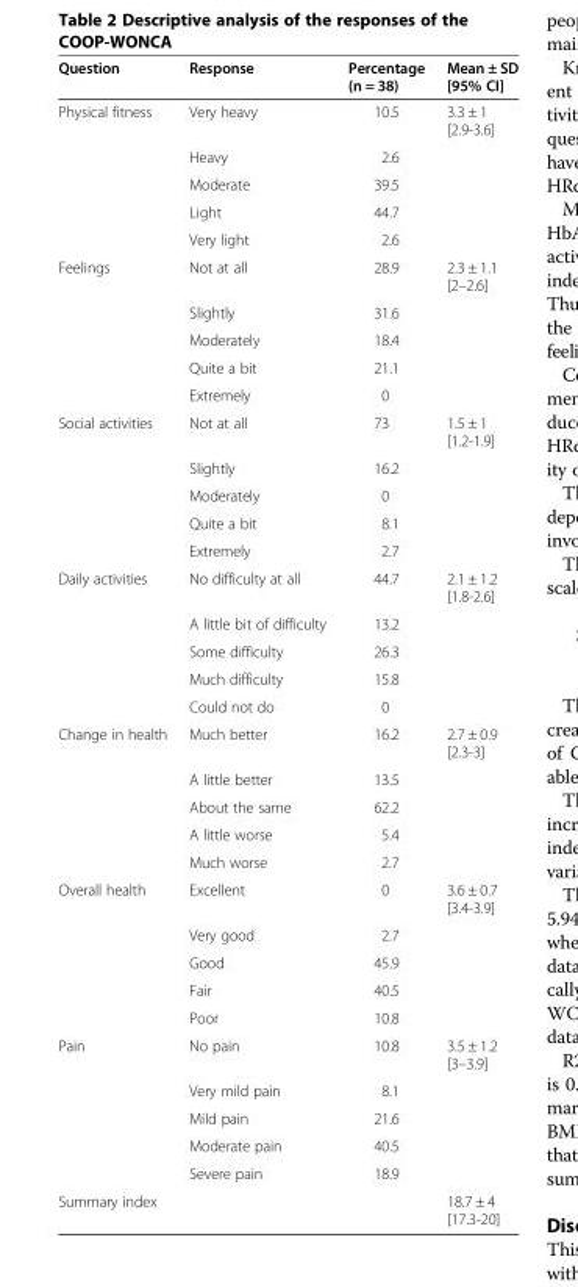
<table><thead><tr><td>Question</td><td>Response</td><td>Percentage (n = 38)</td><td>Mean ± SD [95% CI]</td></tr></thead><tbody><tr><td rowspan="5">Physical fitness</td><td>Very heavy</td><td>10.5</td><td>3.3 ± 1 [2.9-3.6]</td></tr><tr><td>Heavy</td><td>2.6</td><td></td></tr><tr><td>Moderate</td><td>39.5</td><td></td></tr><tr><td>Light</td><td>44.7</td><td></td></tr><tr><td>Very light</td><td>2.6</td><td></td></tr><tr><td rowspan="5">Feelings</td><td>Not at all</td><td>28.9</td><td>2.3 ± 1.1 [2–2.6]</td></tr><tr><td>Slightly</td><td>31.6</td><td></td></tr><tr><td>Moderately</td><td>18.4</td><td></td></tr><tr><td>Quite a bit</td><td>21.1</td><td></td></tr><tr><td>Extremely</td><td>0</td><td></td></tr><tr><td rowspan="5">Social activities</td><td>Not at all</td><td>73</td><td>1.5 ± 1 [1.2-1.9]</td></tr><tr><td>Slightly</td><td>16.2</td><td></td></tr><tr><td>Moderately</td><td>0</td><td></td></tr><tr><td>Quite a bit</td><td>8.1</td><td></td></tr><tr><td>Extremely</td><td>2.7</td><td></td></tr><tr><td rowspan="5">Daily activities</td><td>No difficulty at all</td><td>44.7</td><td>2.1 ± 1.2 [1.8-2.6]</td></tr><tr><td>A little bit of difficulty</td><td>13.2</td><td></td></tr><tr><td>Some difficulty</td><td>26.3</td><td></td></tr><tr><td>Much difficulty</td><td>15.8</td><td></td></tr><tr><td>Could not do</td><td>0</td><td></td></tr><tr><td rowspan="5">Change in health</td><td>Much better</td><td>16.2</td><td>2.7 ± 0.9 [2.3-3]</td></tr><tr><td>A little better</td><td>13.5</td><td></td></tr><tr><td>About the same</td><td>62.2</td><td></td></tr><tr><td>A little worse</td><td>5.4</td><td></td></tr><tr><td>Much worse</td><td>2.7</td><td></td></tr><tr><td rowspan="5">Overall health</td><td>Excellent</td><td>0</td><td>3.6 ± 0.7 [3.4-3.9]</td></tr><tr><td>Very good</td><td>2.7</td><td></td></tr><tr><td>Good</td><td>45.9</td><td></td></tr><tr><td>Fair</td><td>40.5</td><td></td></tr><tr><td>Poor</td><td>10.8</td><td></td></tr><tr><td rowspan="5">Pain</td><td>No pain</td><td>10.8</td><td>3.5 ± 1.2 [3–3.9]</td></tr><tr><td>Very mild pain</td><td>8.1</td><td></td></tr><tr><td>Mild pain</td><td>21.6</td><td></td></tr><tr><td>Moderate pain</td><td>40.5</td><td></td></tr><tr><td>Severe pain</td><td>18.9</td><td></td></tr><tr><td>Summary index</td><td></td><td></td><td>18.7 ± 4 [17.3-20]</td></tr></tbody></table>